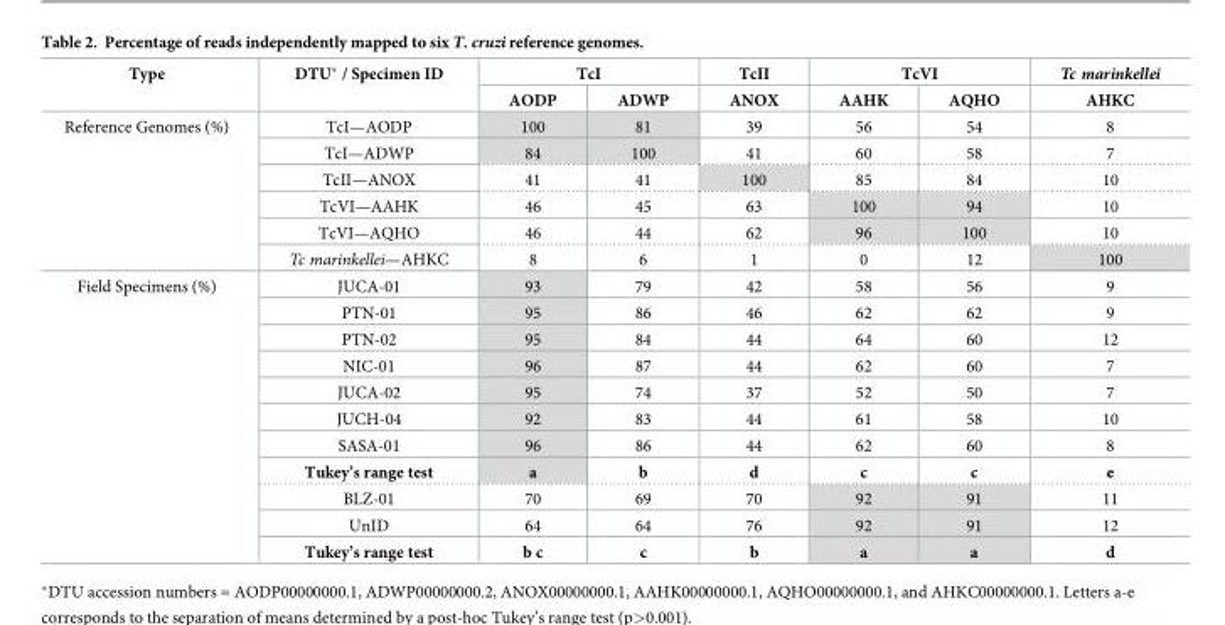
<table><thead><tr><td rowspan="2">Type</td><td rowspan="2">DTU* / Specimen ID</td><td colspan="2">TcI</td><td rowspan="2">TcII ANOX</td><td colspan="2">TcVI</td><td rowspan="2">Tc marinkellei AHKC</td></tr><tr><td>AODP</td><td>ADWP</td><td>AAHK</td><td>AQHO</td></tr></thead><tbody><tr><td rowspan="6">Reference Genomes (%)</td><td>TcI—AODP</td><td>100</td><td>81</td><td>39</td><td>56</td><td>54</td><td>8</td></tr><tr><td>TcI—ADWP</td><td>84</td><td>100</td><td>41</td><td>60</td><td>58</td><td>7</td></tr><tr><td>TcII—ANOX</td><td>41</td><td>41</td><td>100</td><td>85</td><td>84</td><td>10</td></tr><tr><td>TcVI—AAHK</td><td>46</td><td>45</td><td>63</td><td>100</td><td>94</td><td>10</td></tr><tr><td>TcVI—AQHO</td><td>46</td><td>44</td><td>62</td><td>96</td><td>100</td><td>10</td></tr><tr><td>Tc marinkellei—AHKC</td><td>8</td><td>6</td><td>1</td><td>0</td><td>12</td><td>100</td></tr><tr><td rowspan="11">Field Specimens (%)</td><td>JUCA-01</td><td>93</td><td>79</td><td>42</td><td>58</td><td>56</td><td>9</td></tr><tr><td>PTN-01</td><td>95</td><td>86</td><td>46</td><td>62</td><td>62</td><td>9</td></tr><tr><td>PTN-02</td><td>95</td><td>84</td><td>44</td><td>64</td><td>60</td><td>12</td></tr><tr><td>NIC-01</td><td>96</td><td>87</td><td>44</td><td>62</td><td>60</td><td>7</td></tr><tr><td>JUCA-02</td><td>95</td><td>74</td><td>37</td><td>52</td><td>50</td><td>7</td></tr><tr><td>JUCH-04</td><td>92</td><td>83</td><td>44</td><td>61</td><td>58</td><td>10</td></tr><tr><td>SASA-01</td><td>96</td><td>86</td><td>44</td><td>62</td><td>60</td><td>8</td></tr><tr><td>Tukey’s range test</td><td>a</td><td>b</td><td>d</td><td>c</td><td>c</td><td>e</td></tr><tr><td>BLZ-01</td><td>70</td><td>69</td><td>70</td><td>92</td><td>91</td><td>11</td></tr><tr><td>UnID</td><td>64</td><td>64</td><td>76</td><td>92</td><td>91</td><td>12</td></tr><tr><td>Tukey’s range test</td><td>b c</td><td>c</td><td>b</td><td>a</td><td>a</td><td>d</td></tr></tbody></table>